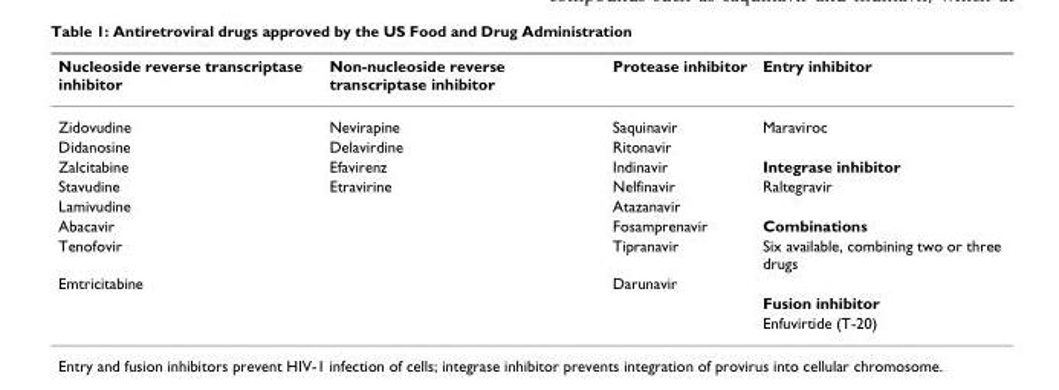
<table><thead><tr><td>Nucleoside reverse transcriptase inhibitor</td><td>Non-nucleoside reverse transcriptase inhibitor</td><td>Protease inhibitor</td><td>Entry inhibitor</td></tr></thead><tbody><tr><td>Zidovudine</td><td>Nevirapine</td><td>Saquinavir</td><td>Maraviroc</td></tr><tr><td>Didanosine</td><td>Delavirdine</td><td>Ritonavir</td><td></td></tr><tr><td>Zalcitabine</td><td>Efavirenz</td><td>Indinavir</td><td>Integrase inhibitor</td></tr><tr><td>Stavudine</td><td>Etravirine</td><td>Nelfinavir</td><td>Raltegravir</td></tr><tr><td>Lamivudine</td><td></td><td>Atazanavir</td><td></td></tr><tr><td>Abacavir</td><td></td><td>Fosamprenavir</td><td>Combinations</td></tr><tr><td>Tenofovir</td><td></td><td>Tipranavir</td><td>Six available, combining two or three drugs</td></tr><tr><td rowspan="3">Emtricitabine</td><td></td><td>Darunavir</td><td></td></tr><tr><td></td><td></td><td>Fusion inhibitor</td></tr><tr><td></td><td></td><td>Enfuvirtide (T-20)</td></tr></tbody></table>